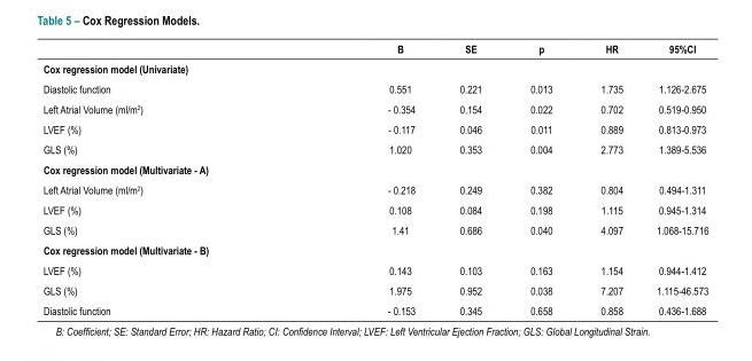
<table><thead><tr><td></td><td>B</td><td>SE</td><td>p</td><td>HR</td><td>95%CI</td></tr></thead><tbody><tr><td colspan="6">Cox regression model (Univariate)</td></tr><tr><td>Diastolic function</td><td>0.551</td><td>0.221</td><td>0.013</td><td>1.735</td><td>1.126-2.675</td></tr><tr><td>Left Atrial Volume (ml/m<sup>2</sup>)</td><td>- 0.354</td><td>0.154</td><td>0.022</td><td>0.702</td><td>0.519-0.950</td></tr><tr><td>LVEF (%)</td><td>- 0.117</td><td>0.046</td><td>0.011</td><td>0.889</td><td>0.813-0.973</td></tr><tr><td>GLS (%)</td><td>1.020</td><td>0.353</td><td>0.004</td><td>2.773</td><td>1.389-5.536</td></tr><tr><td colspan="6">Cox regression model (Multivariate - A)</td></tr><tr><td>Left Atrial Volume (ml/m<sup>2</sup>)</td><td>- 0.218</td><td>0.249</td><td>0.382</td><td>0.804</td><td>0.494-1.311</td></tr><tr><td>LVEF (%)</td><td>0.108</td><td>0.084</td><td>0.198</td><td>1.115</td><td>0.945-1.314</td></tr><tr><td>GLS (%)</td><td>1.41</td><td>0.686</td><td>0.040</td><td>4.097</td><td>1.068-15.716</td></tr><tr><td colspan="6">Cox regression model (Multivariate - B)</td></tr><tr><td>LVEF (%)</td><td>0.143</td><td>0.103</td><td>0.163</td><td>1.154</td><td>0.944-1.412</td></tr><tr><td>GLS (%)</td><td>1.975</td><td>0.952</td><td>0.038</td><td>7.207</td><td>1.115-46.573</td></tr><tr><td>Diastolic function</td><td>- 0.153</td><td>0.345</td><td>0.658</td><td>0.858</td><td>0.436-1.688</td></tr></tbody></table>